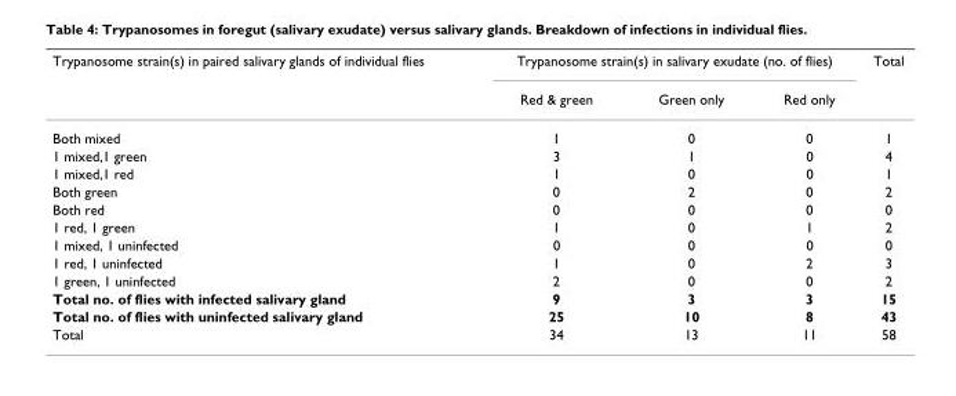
<table><thead><tr><td rowspan="2">Trypanosome strain(s) in paired salivary glands of individual flies</td><td colspan="3">Trypanosome strain(s) in salivary exudate (no. of flies)</td><td rowspan="2">Total</td></tr><tr><td>Red &amp; green</td><td>Green only</td><td>Red only</td></tr></thead><tbody><tr><td>Both mixed</td><td>1</td><td>0</td><td>0</td><td>1</td></tr><tr><td>1 mixed,1 green</td><td>3</td><td>1</td><td>0</td><td>4</td></tr><tr><td>1 mixed,1 red</td><td>1</td><td>0</td><td>0</td><td>1</td></tr><tr><td>Both green</td><td>0</td><td>2</td><td>0</td><td>2</td></tr><tr><td>Both red</td><td>0</td><td>0</td><td>0</td><td>0</td></tr><tr><td>1 red, 1 green</td><td>1</td><td>0</td><td>1</td><td>2</td></tr><tr><td>1 mixed, 1 uninfected</td><td>0</td><td>0</td><td>0</td><td>0</td></tr><tr><td>1 red, 1 uninfected</td><td>1</td><td>0</td><td>2</td><td>3</td></tr><tr><td>1 green, 1 uninfected</td><td>2</td><td>0</td><td>0</td><td>2</td></tr><tr><td>Total no. of flies with infected salivary gland</td><td>9</td><td>3</td><td>3</td><td>15</td></tr><tr><td>Total no. of flies with uninfected salivary gland</td><td>25</td><td>10</td><td>8</td><td>43</td></tr><tr><td>Total</td><td>34</td><td>13</td><td>11</td><td>58</td></tr></tbody></table>